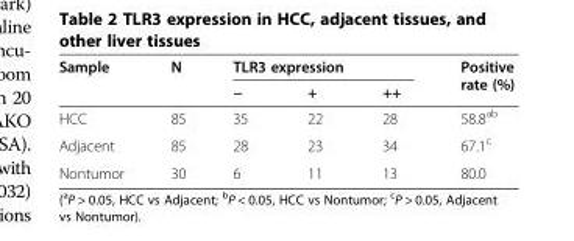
<table><thead><tr><td rowspan="2">Sample</td><td rowspan="2">N</td><td colspan="3">TLR3 expression</td><td rowspan="2">Positive rate (%)</td></tr><tr><td>−</td><td>+</td><td>++</td></tr></thead><tbody><tr><td>HCC</td><td>85</td><td>35</td><td>22</td><td>28</td><td>58.8<sup>ab</sup></td></tr><tr><td>Adjacent</td><td>85</td><td>28</td><td>23</td><td>34</td><td>67.1<sup>c</sup></td></tr><tr><td>Nontumor</td><td>30</td><td>6</td><td>11</td><td>13</td><td>80.0</td></tr></tbody></table>